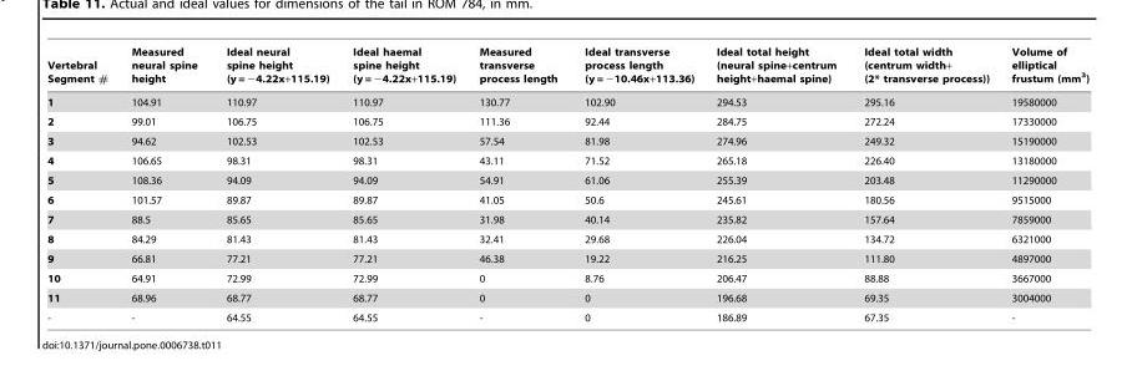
<table><thead><tr><td>Vertebral Segment #</td><td>Measured neural spine height</td><td>Ideal neural spine height (y = −4.22x+115.19)</td><td>Ideal haemal spine height (y = −4.22x+115.19)</td><td>Measured transverse process length</td><td>Ideal transverse process length (y = −10.46x+113.36)</td><td>Ideal total height (neural spine+centrum height+haemal spine)</td><td>Ideal total width (centrum width+ (2* transverse process))</td><td>Volume of elliptical frustum (mm<sup>3</sup>)</td></tr></thead><tbody><tr><td>1</td><td>104.91</td><td>110.97</td><td>110.97</td><td>130.77</td><td>102.90</td><td>294.53</td><td>295.16</td><td>19580000</td></tr><tr><td>2</td><td>99.01</td><td>106.75</td><td>106.75</td><td>111.36</td><td>92.44</td><td>284.75</td><td>272.24</td><td>17330000</td></tr><tr><td>3</td><td>94.62</td><td>102.53</td><td>102.53</td><td>57.54</td><td>81.98</td><td>274.96</td><td>249.32</td><td>15190000</td></tr><tr><td>4</td><td>106.65</td><td>98.31</td><td>98.31</td><td>43.11</td><td>71.52</td><td>265.18</td><td>226.40</td><td>13180000</td></tr><tr><td>5</td><td>108.36</td><td>94.09</td><td>94.09</td><td>54.91</td><td>61.06</td><td>255.39</td><td>203.48</td><td>11290000</td></tr><tr><td>6</td><td>101.57</td><td>89.87</td><td>89.87</td><td>41.05</td><td>50.6</td><td>245.61</td><td>180.56</td><td>9515000</td></tr><tr><td>7</td><td>88.5</td><td>85.65</td><td>85.65</td><td>31.98</td><td>40.14</td><td>235.82</td><td>157.64</td><td>7859000</td></tr><tr><td>8</td><td>84.29</td><td>81.43</td><td>81.43</td><td>32.41</td><td>29.68</td><td>226.04</td><td>134.72</td><td>6321000</td></tr><tr><td>9</td><td>66.81</td><td>77.21</td><td>77.21</td><td>46.38</td><td>19.22</td><td>216.25</td><td>111.80</td><td>4897000</td></tr><tr><td>10</td><td>64.91</td><td>72.99</td><td>72.99</td><td>0</td><td>8.76</td><td>206.47</td><td>88.88</td><td>3667000</td></tr><tr><td>11</td><td>68.96</td><td>68.77</td><td>68.77</td><td>0</td><td>0</td><td>196.68</td><td>69.35</td><td>3004000</td></tr><tr><td>-</td><td>-</td><td>64.55</td><td>64.55</td><td>-</td><td>0</td><td>186.89</td><td>67.35</td><td>-</td></tr></tbody></table>